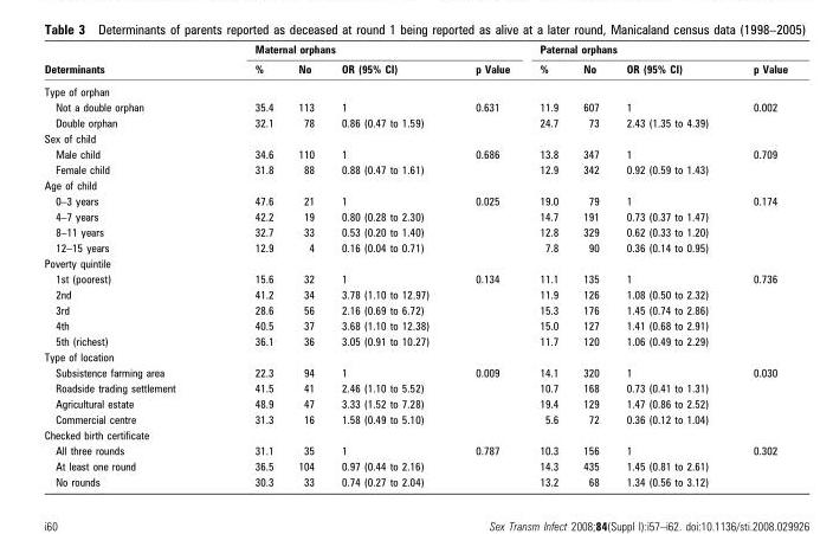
<table><thead><tr><td rowspan="2">Determinants</td><td colspan="4">Maternal orphans</td><td colspan="4">Paternal orphans</td></tr><tr><td>%</td><td>No</td><td>OR (95% CI)</td><td>p Value</td><td>%</td><td>No</td><td>OR (95% CI)</td><td>p Value</td></tr></thead><tbody><tr><td colspan="9">Type of orphan</td></tr><tr><td>Not a double orphan</td><td>35.4</td><td>113</td><td>1</td><td rowspan="2">0.631</td><td>11.9</td><td>607</td><td>1</td><td rowspan="2">0.002</td></tr><tr><td>Double orphan</td><td>32.1</td><td>78</td><td>0.86 (0.47 to 1.59)</td><td>24.7</td><td>73</td><td>2.43 (1.35 to 4.39)</td></tr><tr><td colspan="9">Sex of child</td></tr><tr><td>Male child</td><td>34.6</td><td>110</td><td>1</td><td rowspan="2">0.686</td><td>13.8</td><td>347</td><td>1</td><td rowspan="2">0.709</td></tr><tr><td>Female child</td><td>31.8</td><td>88</td><td>0.88 (0.47 to 1.61)</td><td>12.9</td><td>342</td><td>0.92 (0.59 to 1.43)</td></tr><tr><td colspan="9">Age of child</td></tr><tr><td>0–3 years</td><td>47.6</td><td>21</td><td>1</td><td rowspan="4">0.025</td><td>19.0</td><td>79</td><td>1</td><td rowspan="4">0.174</td></tr><tr><td>4–7 years</td><td>42.2</td><td>19</td><td>0.80 (0.28 to 2.30)</td><td>14.7</td><td>191</td><td>0.73 (0.37 to 1.47)</td></tr><tr><td>8–11 years</td><td>32.7</td><td>33</td><td>0.53 (0.20 to 1.40)</td><td>12.8</td><td>329</td><td>0.62 (0.33 to 1.20)</td></tr><tr><td>12–15 years</td><td>12.9</td><td>4</td><td>0.16 (0.04 to 0.71)</td><td>7.8</td><td>90</td><td>0.36 (0.14 to 0.95)</td></tr><tr><td colspan="9">Poverty quintile</td></tr><tr><td>1st (poorest)</td><td>15.6</td><td>32</td><td>1</td><td rowspan="5">0.134</td><td>11.1</td><td>135</td><td>1</td><td rowspan="5">0.736</td></tr><tr><td>2nd</td><td>41.2</td><td>34</td><td>3.78 (1.10 to 12.97)</td><td>11.9</td><td>126</td><td>1.08 (0.50 to 2.32)</td></tr><tr><td>3rd</td><td>28.6</td><td>56</td><td>2.16 (0.69 to 6.72)</td><td>15.3</td><td>176</td><td>1.45 (0.74 to 2.86)</td></tr><tr><td>4th</td><td>40.5</td><td>37</td><td>3.68 (1.10 to 12.38)</td><td>15.0</td><td>127</td><td>1.41 (0.68 to 2.91)</td></tr><tr><td>5th (richest)</td><td>36.1</td><td>36</td><td>3.05 (0.91 to 10.27)</td><td>11.7</td><td>120</td><td>1.06 (0.49 to 2.29)</td></tr><tr><td colspan="9">Type of location</td></tr><tr><td>Subsistence farming area</td><td>22.3</td><td>94</td><td>1</td><td rowspan="4">0.009</td><td>14.1</td><td>320</td><td>1</td><td rowspan="4">0.030</td></tr><tr><td>Roadside trading settlement</td><td>41.5</td><td>41</td><td>2.46 (1.10 to 5.52)</td><td>10.7</td><td>168</td><td>0.73 (0.41 to 1.31)</td></tr><tr><td>Agricultural estate</td><td>48.9</td><td>47</td><td>3.33 (1.52 to 7.28)</td><td>19.4</td><td>129</td><td>1.47 (0.86 to 2.52)</td></tr><tr><td>Commercial centre</td><td>31.3</td><td>16</td><td>1.58 (0.49 to 5.10)</td><td>5.6</td><td>72</td><td>0.36 (0.12 to 1.04)</td></tr><tr><td colspan="9">Checked birth certificate</td></tr><tr><td>All three rounds</td><td>31.1</td><td>35</td><td>1</td><td rowspan="3">0.787</td><td>10.3</td><td>156</td><td>1</td><td rowspan="3">0.302</td></tr><tr><td>At least one round</td><td>36.5</td><td>104</td><td>0.97 (0.44 to 2.16)</td><td>14.3</td><td>435</td><td>1.45 (0.81 to 2.61)</td></tr><tr><td>No rounds</td><td>30.3</td><td>33</td><td>0.74 (0.27 to 2.04)</td><td>13.2</td><td>68</td><td>1.34 (0.56 to 3.12)</td></tr></tbody></table>